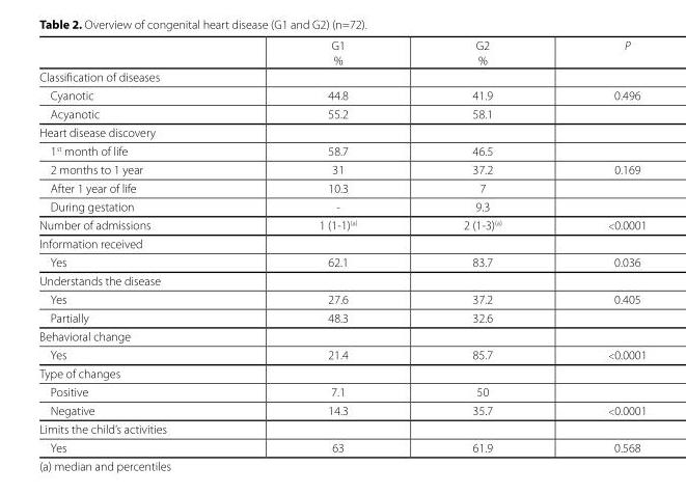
<table><thead><tr><td></td><td>G1 %</td><td>G2 %</td><td>P</td></tr></thead><tbody><tr><td colspan="4">Classification of diseases</td></tr><tr><td>Cyanotic</td><td>44.8</td><td>41.9</td><td>0.496</td></tr><tr><td>Acyanotic</td><td>55.2</td><td>58.1</td><td></td></tr><tr><td colspan="4">Heart disease discovery</td></tr><tr><td>1<sup>st</sup> month of life</td><td>58.7</td><td>46.5</td><td></td></tr><tr><td>2 months to 1 year</td><td>31</td><td>37.2</td><td>0.169</td></tr><tr><td>After 1 year of life</td><td>10.3</td><td>7</td><td></td></tr><tr><td>During gestation</td><td>-</td><td>9.3</td><td></td></tr><tr><td>Number of admissions</td><td>1 (1-1)<sup>(a)</sup></td><td>2 (1-3)<sup>(a)</sup></td><td>&lt;0.0001</td></tr><tr><td colspan="4">Information received</td></tr><tr><td>Yes</td><td>62.1</td><td>83.7</td><td>0.036</td></tr><tr><td colspan="4">Understands the disease</td></tr><tr><td>Yes</td><td>27.6</td><td>37.2</td><td>0.405</td></tr><tr><td>Partially</td><td>48.3</td><td>32.6</td><td></td></tr><tr><td colspan="4">Behavioral change</td></tr><tr><td>Yes</td><td>21.4</td><td>85.7</td><td>&lt;0.0001</td></tr><tr><td colspan="4">Type of changes</td></tr><tr><td>Positive</td><td>7.1</td><td>50</td><td></td></tr><tr><td>Negative</td><td>14.3</td><td>35.7</td><td>&lt;0.0001</td></tr><tr><td colspan="4">Limits the child’s activities</td></tr><tr><td>Yes</td><td>63</td><td>61.9</td><td>0.568</td></tr></tbody></table>